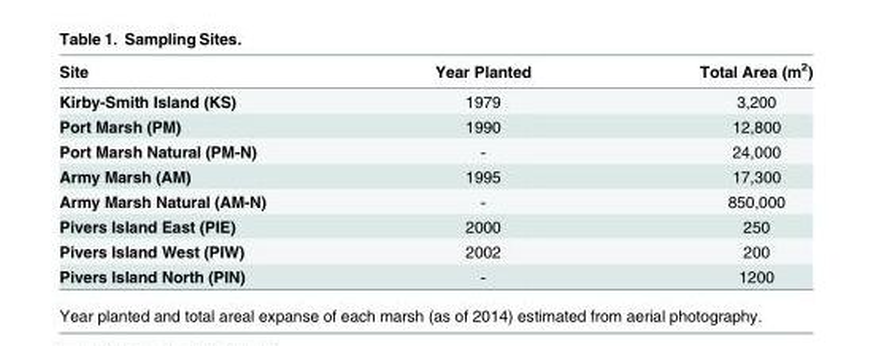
<table><thead><tr><td>Site</td><td>Year Planted</td><td>Total Area (m<sup>2</sup>)</td></tr></thead><tbody><tr><td>Kirby-Smith Island (KS)</td><td>1979</td><td>3,200</td></tr><tr><td>Port Marsh (PM)</td><td>1990</td><td>12,800</td></tr><tr><td>Port Marsh Natural (PM-N)</td><td>-</td><td>24,000</td></tr><tr><td>Army Marsh (AM)</td><td>1995</td><td>17,300</td></tr><tr><td>Army Marsh Natural (AM-N)</td><td>-</td><td>850,000</td></tr><tr><td>Pivers Island East (PIE)</td><td>2000</td><td>250</td></tr><tr><td>Pivers Island West (PIW)</td><td>2002</td><td>200</td></tr><tr><td>Pivers Island North (PIN)</td><td>-</td><td>1200</td></tr></tbody></table>